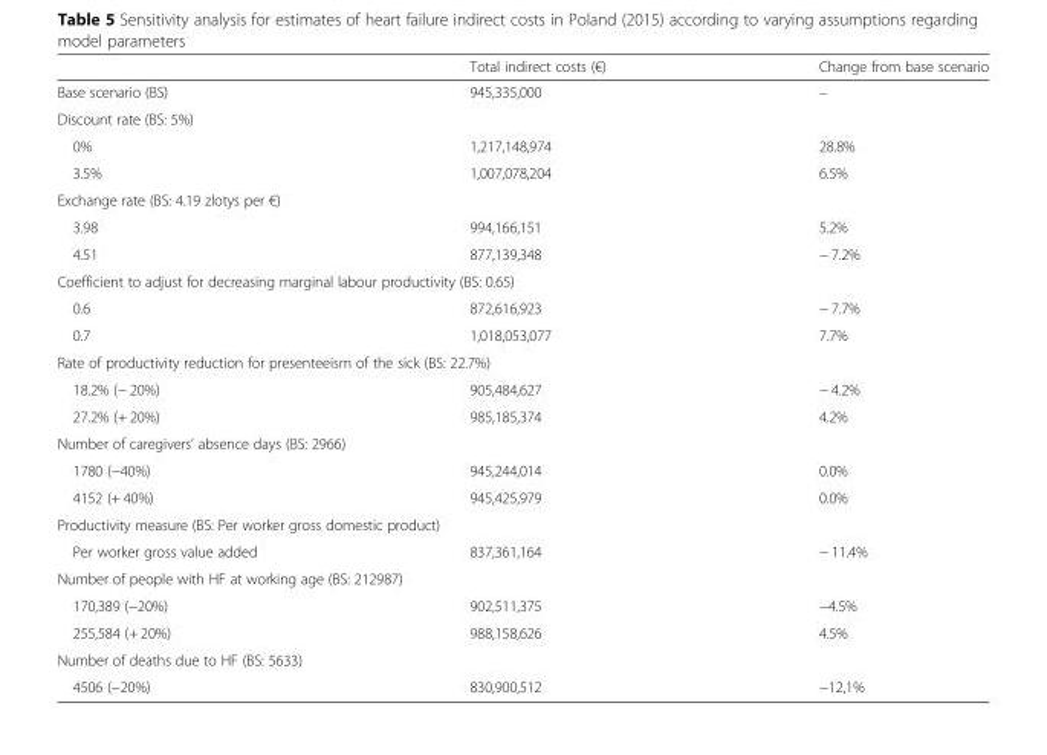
<table><thead><tr><td></td><td>Total indirect costs (€)</td><td>Change from base scenario</td></tr></thead><tbody><tr><td>Base scenario (BS)</td><td>945,335,000</td><td>–</td></tr><tr><td colspan="3">Discount rate (BS: 5%)</td></tr><tr><td>0%</td><td>1,217,148,974</td><td>28.8%</td></tr><tr><td>3.5%</td><td>1,007,078,204</td><td>6.5%</td></tr><tr><td colspan="3">Exchange rate (BS: 4.19 zlotys per €)</td></tr><tr><td>3.98</td><td>994,166,151</td><td>5.2%</td></tr><tr><td>4.51</td><td>877,139,348</td><td>− 7.2%</td></tr><tr><td colspan="3">Coefficient to adjust for decreasing marginal labour productivity (BS: 0.65)</td></tr><tr><td>0.6</td><td>872,616,923</td><td>− 7.7%</td></tr><tr><td>0.7</td><td>1,018,053,077</td><td>7.7%</td></tr><tr><td colspan="3">Rate of productivity reduction for presenteeism of the sick (BS: 22.7%)</td></tr><tr><td>18.2% (− 20%)</td><td>905,484,627</td><td>− 4.2%</td></tr><tr><td>27.2% (+ 20%)</td><td>985,185,374</td><td>4.2%</td></tr><tr><td colspan="3">Number of caregivers’ absence days (BS: 2966)</td></tr><tr><td>1780 (−40%)</td><td>945,244,014</td><td>0.0%</td></tr><tr><td>4152 (+ 40%)</td><td>945,425,979</td><td>0.0%</td></tr><tr><td colspan="3">Productivity measure (BS: Per worker gross domestic product)</td></tr><tr><td>Per worker gross value added</td><td>837,361,164</td><td>− 11.4%</td></tr><tr><td colspan="3">Number of people with HF at working age (BS: 212987)</td></tr><tr><td>170,389 (−20%)</td><td>902,511,375</td><td>−4.5%</td></tr><tr><td>255,584 (+ 20%)</td><td>988,158,626</td><td>4.5%</td></tr><tr><td colspan="3">Number of deaths due to HF (BS: 5633)</td></tr><tr><td>4506 (−20%)</td><td>830,900,512</td><td>−12,1%</td></tr></tbody></table>